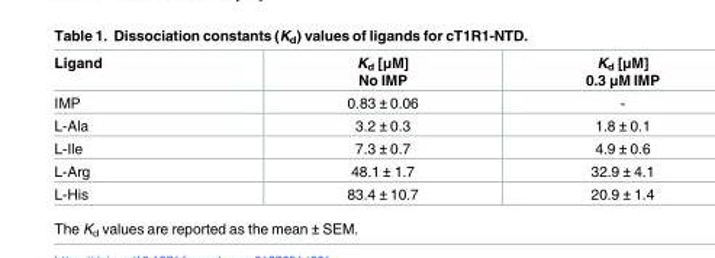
<table><thead><tr><td>Ligand</td><td>K<sub>d</sub> [μM] No IMP</td><td>K<sub>d</sub> [μM] 0.3 μM IMP</td></tr></thead><tbody><tr><td>IMP</td><td>0.83 ± 0.06</td><td>-</td></tr><tr><td>L-Ala</td><td>3.2 ± 0.3</td><td>1.8 ± 0.1</td></tr><tr><td>L-Ile</td><td>7.3 ± 0.7</td><td>4.9 ± 0.6</td></tr><tr><td>L-Arg</td><td>48.1 ± 1.7</td><td>32.9 ± 4.1</td></tr><tr><td>L-His</td><td>83.4 ± 10.7</td><td>20.9 ± 1.4</td></tr></tbody></table>